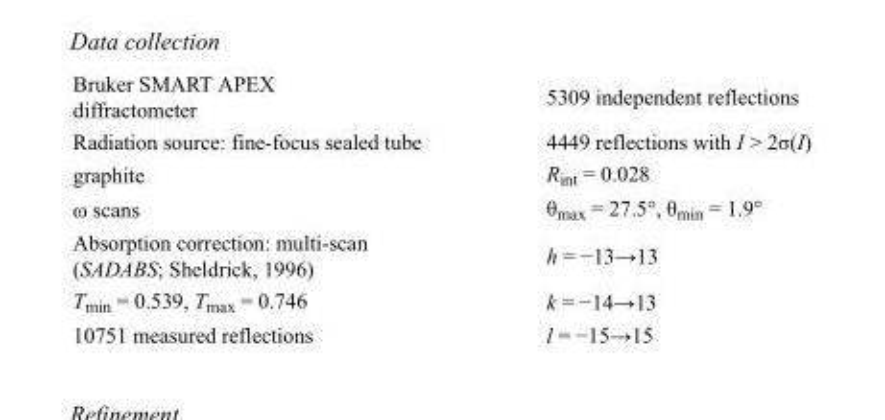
<table><tbody><tr><td>Bruker SMART APEX diffractometer</td><td>5309 independent reflections</td></tr><tr><td>Radiation source: fine-focus sealed tube</td><td>4449 reflections with I &gt; 2σ(I)</td></tr><tr><td>graphite</td><td>R<sub>int</sub> = 0.028</td></tr><tr><td>ω scans</td><td>θ<sub>max</sub> = 27.5°, θ<sub>min</sub> = 1.9°</td></tr><tr><td>Absorption correction: multi-scan (SADABS; Sheldrick, 1996)</td><td>h = −13→13</td></tr><tr><td>T<sub>min</sub> = 0.539, T<sub>max</sub> = 0.746</td><td>k = −14→13</td></tr><tr><td>10751 measured reflections</td><td>l = −15→15</td></tr></tbody></table>